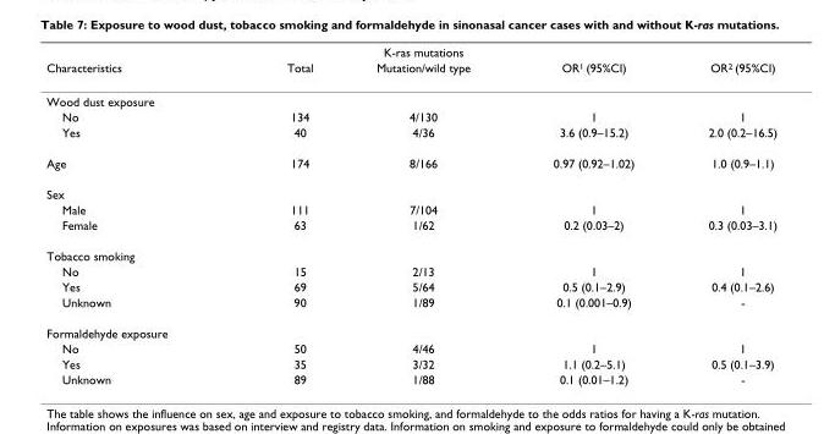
<table><thead><tr><td rowspan="2">Characteristics</td><td rowspan="2">Total</td><td rowspan="2">K-ras mutations Mutation/wild type</td><td rowspan="2">OR<sup>1</sup> (95%CI)</td><td rowspan="2">OR<sup>2</sup> (95%CI)</td></tr><tr></tr></thead><tbody><tr><td colspan="5">Wood dust exposure</td></tr><tr><td>No</td><td>134</td><td>4/130</td><td>1</td><td>1</td></tr><tr><td>Yes</td><td>40</td><td>4/36</td><td>3.6 (0.9–15.2)</td><td>2.0 (0.2–16.5)</td></tr><tr><td>Age</td><td>174</td><td>8/166</td><td>0.97 (0.92–1.02)</td><td>1.0 (0.9–1.1)</td></tr><tr><td colspan="5">Sex</td></tr><tr><td>Male</td><td>111</td><td>7/104</td><td>1</td><td>1</td></tr><tr><td>Female</td><td>63</td><td>1/62</td><td>0.2 (0.03–2)</td><td>0.3 (0.03–3.1)</td></tr><tr><td colspan="5">Tobacco smoking</td></tr><tr><td>No</td><td>15</td><td>2/13</td><td>1</td><td>1</td></tr><tr><td>Yes</td><td>69</td><td>5/64</td><td>0.5 (0.1–2.9)</td><td>0.4 (0.1–2.6)</td></tr><tr><td>Unknown</td><td>90</td><td>1/89</td><td>0.1 (0.001–0.9)</td><td>-</td></tr><tr><td colspan="5">Formaldehyde exposure</td></tr><tr><td>No</td><td>50</td><td>4/46</td><td>1</td><td>1</td></tr><tr><td>Yes</td><td>35</td><td>3/32</td><td>1.1 (0.2–5.1)</td><td>0.5 (0.1–3.9)</td></tr><tr><td>Unknown</td><td>89</td><td>1/88</td><td>0.1 (0.01–1.2)</td><td>-</td></tr></tbody></table>